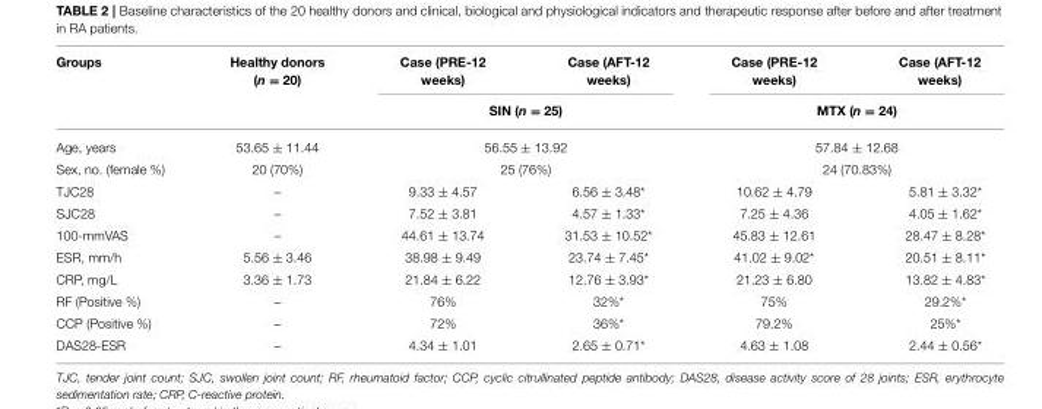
<table><thead><tr><td rowspan="2">Groups</td><td rowspan="2">Healthy donors (n = 20)</td><td>Case (PRE-12 weeks)</td><td>Case (AFT-12 weeks)</td><td>Case (PRE-12 weeks)</td><td>Case (AFT-12 weeks)</td></tr><tr><td colspan="2">SIN (n = 25)</td><td colspan="2">MTX (n = 24)</td></tr></thead><tbody><tr><td>Age, years</td><td>53.65 ± 11.44</td><td colspan="2">56.55 ± 13.92</td><td colspan="2">57.84 ± 12.68</td></tr><tr><td>Sex, no. (female %)</td><td>20 (70%)</td><td colspan="2">25 (76%)</td><td colspan="2">24 (70.83%)</td></tr><tr><td>TJC28</td><td>–</td><td>9.33 ± 4.57</td><td>6.56 ± 3.48*</td><td>10.62 ± 4.79</td><td>5.81 ± 3.32*</td></tr><tr><td>SJC28</td><td>–</td><td>7.52 ± 3.81</td><td>4.57 ± 1.33*</td><td>7.25 ± 4.36</td><td>4.05 ± 1.62*</td></tr><tr><td>100-mmVAS</td><td>–</td><td>44.61 ± 13.74</td><td>31.53 ± 10.52*</td><td>45.83 ± 12.61</td><td>28.47 ± 8.28*</td></tr><tr><td>ESR, mm/h</td><td>5.56 ± 3.46</td><td>38.98 ± 9.49</td><td>23.74 ± 7.45*</td><td>41.02 ± 9.02*</td><td>20.51 ± 8.11*</td></tr><tr><td>CRP, mg/L</td><td>3.36 ± 1.73</td><td>21.84 ± 6.22</td><td>12.76 ± 3.93*</td><td>21.23 ± 6.80</td><td>13.82 ± 4.83*</td></tr><tr><td>RF (Positive %)</td><td>–</td><td>76%</td><td>32%*</td><td>75%</td><td>29.2%*</td></tr><tr><td>CCP (Positive %)</td><td>–</td><td>72%</td><td>36%*</td><td>79.2%</td><td>25%*</td></tr><tr><td>DAS28-ESR</td><td>–</td><td>4.34 ± 1.01</td><td>2.65 ± 0.71*</td><td>4.63 ± 1.08</td><td>2.44 ± 0.56*</td></tr></tbody></table>